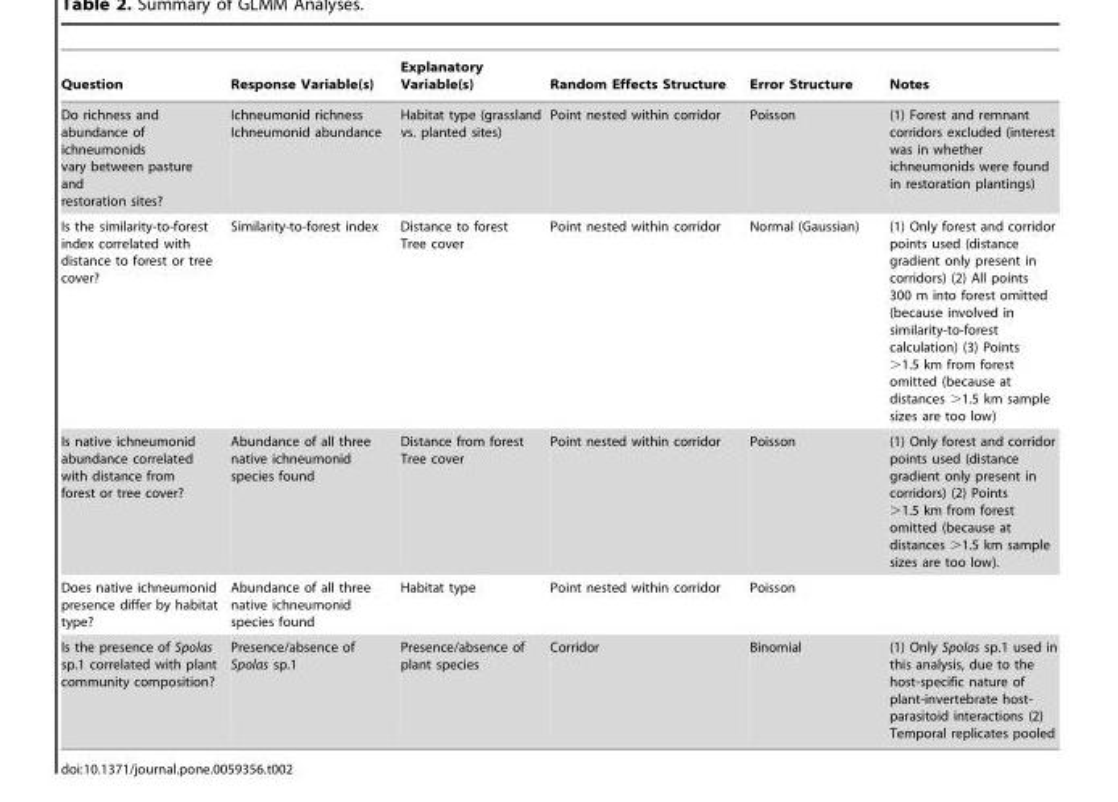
<table><thead><tr><td>Question</td><td>Response Variable(s)</td><td>Explanatory Variable(s)</td><td>Random Effects Structure</td><td>Error Structure</td><td>Notes</td></tr></thead><tbody><tr><td>Do richness and abundance of ichneumonids vary between pasture and restoration sites?</td><td>Ichneumonid richness Ichneumonid abundance</td><td>Habitat type (grassland vs. planted sites)</td><td>Point nested within corridor</td><td>Poisson</td><td>(1) Forest and remnant corridors excluded (interest was in whether ichneumonids were found in restoration plantings)</td></tr><tr><td>Is the similarity-to-forest index correlated with distance to forest or tree cover?</td><td>Similarity-to-forest index</td><td>Distance to forest Tree cover</td><td>Point nested within corridor</td><td>Normal (Gaussian)</td><td>(1) Only forest and corridor points used (distance gradient only present in corridors) (2) All points 300 m into forest omitted (because involved in similarity-to-forest calculation) (3) Points &gt;1.5 km from forest omitted (because at distances &gt;1.5 km sample sizes are too low)</td></tr><tr><td>Is native ichneumonid abundance correlated with distance from forest or tree cover?</td><td>Abundance of all three native ichneumonid species found</td><td>Distance from forest Tree cover</td><td>Point nested within corridor</td><td>Poisson</td><td>(1) Only forest and corridor points used (distance gradient only present in corridors) (2) Points &gt;1.5 km from forest omitted (because at distances &gt;1.5 km sample sizes are too low).</td></tr><tr><td>Does native ichneumonid presence differ by habitat type?</td><td>Abundance of all three native ichneumonid species found</td><td>Habitat type</td><td>Point nested within corridor</td><td>Poisson</td><td></td></tr><tr><td>Is the presence of Spolas sp.1 correlated with plant community composition?</td><td>Presence/absence of Spolas sp.1</td><td>Presence/absence of plant species</td><td>Corridor</td><td>Binomial</td><td>(1) Only Spolas sp.1 used in this analysis, due to the host-specific nature of plant-invertebrate host- parasitoid interactions (2) Temporal replicates pooled</td></tr></tbody></table>